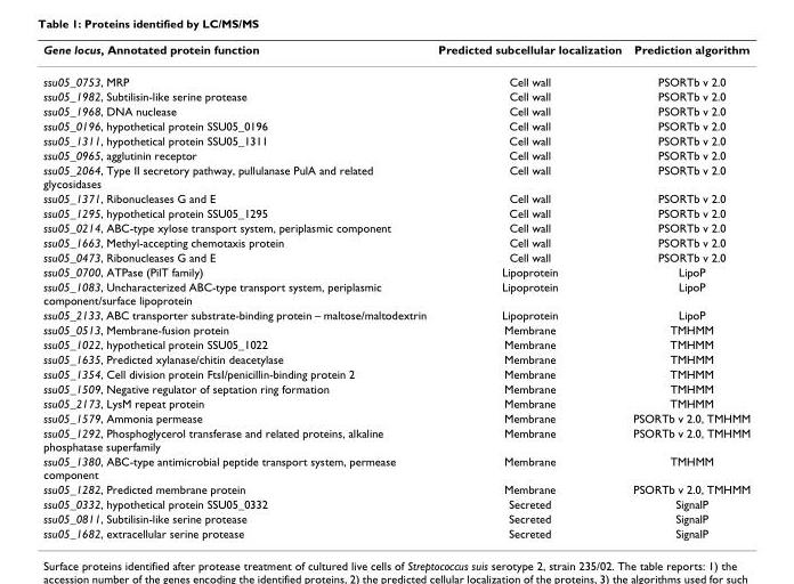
<table><thead><tr><td>Gene locus, Annotated protein function</td><td>Predicted subcellular localization</td><td>Prediction algorithm</td></tr></thead><tbody><tr><td>ssu05_0753, MRP</td><td>Cell wall</td><td>PSORTb v 2.0</td></tr><tr><td>ssu05_1982, Subtilisin-like serine protease</td><td>Cell wall</td><td>PSORTb v 2.0</td></tr><tr><td>ssu05_1968, DNA nuclease</td><td>Cell wall</td><td>PSORTb v 2.0</td></tr><tr><td>ssu05_0196, hypothetical protein SSU05_0196</td><td>Cell wall</td><td>PSORTb v 2.0</td></tr><tr><td>ssu05_1311, hypothetical protein SSU05_1311</td><td>Cell wall</td><td>PSORTb v 2.0</td></tr><tr><td>ssu05_0965, agglutinin receptor</td><td>Cell wall</td><td>PSORTb v 2.0</td></tr><tr><td>ssu05_2064, Type II secretory pathway, pullulanase PulA and related glycosidases</td><td>Cell wall</td><td>PSORTb v 2.0</td></tr><tr><td>ssu05_1371, Ribonucleases G and E</td><td>Cell wall</td><td>PSORTb v 2.0</td></tr><tr><td>ssu05_1295, hypothetical protein SSU05_1295</td><td>Cell wall</td><td>PSORTb v 2.0</td></tr><tr><td>ssu05_0214, ABC-type xylose transport system, periplasmic component</td><td>Cell wall</td><td>PSORTb v 2.0</td></tr><tr><td>ssu05_1663, Methyl-accepting chemotaxis protein</td><td>Cell wall</td><td>PSORTb v 2.0</td></tr><tr><td>ssu05_0473, Ribonucleases G and E</td><td>Cell wall</td><td>PSORTb v 2.0</td></tr><tr><td>ssu05_0700, ATPase (PilT family)</td><td>Lipoprotein</td><td>LipoP</td></tr><tr><td>ssu05_1083, Uncharacterized ABC-type transport system, periplasmic component/surface lipoprotein</td><td>Lipoprotein</td><td>LipoP</td></tr><tr><td>ssu05_2133, ABC transporter substrate-binding protein – maltose/maltodextrin</td><td>Lipoprotein</td><td>LipoP</td></tr><tr><td>ssu05_0513, Membrane-fusion protein</td><td>Membrane</td><td>TMHMM</td></tr><tr><td>ssu05_1022, hypothetical protein SSU05_1022</td><td>Membrane</td><td>TMHMM</td></tr><tr><td>ssu05_1635, Predicted xylanase/chitin deacetylase</td><td>Membrane</td><td>TMHMM</td></tr><tr><td>ssu05_1354, Cell division protein FtsI/penicillin-binding protein 2</td><td>Membrane</td><td>TMHMM</td></tr><tr><td>ssu05_1509, Negative regulator of septation ring formation</td><td>Membrane</td><td>TMHMM</td></tr><tr><td>ssu05_2173, LysM repeat protein</td><td>Membrane</td><td>TMHMM</td></tr><tr><td>ssu05_1579, Ammonia permease</td><td>Membrane</td><td>PSORTb v 2.0, TMHMM</td></tr><tr><td>ssu05_1292, Phosphoglycerol transferase and related proteins, alkaline phosphatase superfamily</td><td>Membrane</td><td>PSORTb v 2.0, TMHMM</td></tr><tr><td>ssu05_1380, ABC-type antimicrobial peptide transport system, permease component</td><td>Membrane</td><td>TMHMM</td></tr><tr><td>ssu05_1282, Predicted membrane protein</td><td>Membrane</td><td>PSORTb v 2.0, TMHMM</td></tr><tr><td>ssu05_0332, hypothetical protein SSU05_0332</td><td>Secreted</td><td>SignalP</td></tr><tr><td>ssu05_0811, Subtilisin-like serine protease</td><td>Secreted</td><td>SignalP</td></tr><tr><td>ssu05_1682, extracellular serine protease</td><td>Secreted</td><td>SignalP</td></tr></tbody></table>